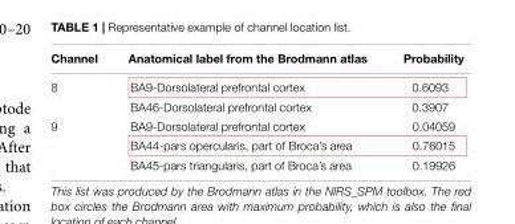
<table><thead><tr><td>Channel</td><td>Anatomical label from the Brodmann atlas</td><td>Probability</td></tr></thead><tbody><tr><td rowspan="2">8</td><td>BA9-Dorsolateral prefrontal cortex</td><td>0.6093</td></tr><tr><td>BA46-Dorsolateral prefrontal cortex</td><td>0.3907</td></tr><tr><td rowspan="3">9</td><td>BA9-Dorsolateral prefrontal cortex</td><td>0.04059</td></tr><tr><td>BA44-pars opercularis, part of Broca’s area</td><td>0.76015</td></tr><tr><td>BA45-pars triangularis, part of Broca’s area</td><td>0.19926</td></tr></tbody></table>